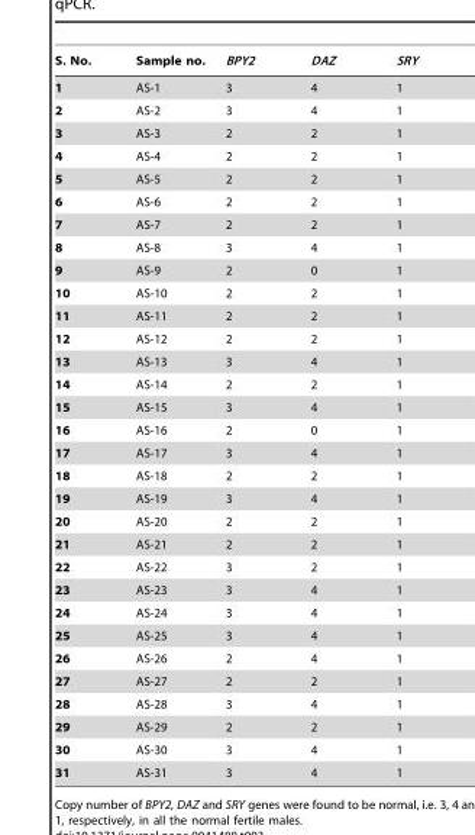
<table><thead><tr><td>S. No.</td><td>Sample no.</td><td>BPY2</td><td>DAZ</td><td>SRY</td></tr></thead><tbody><tr><td>1</td><td>AS-1</td><td>3</td><td>4</td><td>1</td></tr><tr><td>2</td><td>AS-2</td><td>3</td><td>4</td><td>1</td></tr><tr><td>3</td><td>AS-3</td><td>2</td><td>2</td><td>1</td></tr><tr><td>4</td><td>AS-4</td><td>2</td><td>2</td><td>1</td></tr><tr><td>5</td><td>AS-5</td><td>2</td><td>2</td><td>1</td></tr><tr><td>6</td><td>AS-6</td><td>2</td><td>2</td><td>1</td></tr><tr><td>7</td><td>AS-7</td><td>2</td><td>2</td><td>1</td></tr><tr><td>8</td><td>AS-8</td><td>3</td><td>4</td><td>1</td></tr><tr><td>9</td><td>AS-9</td><td>2</td><td>0</td><td>1</td></tr><tr><td>10</td><td>AS-10</td><td>2</td><td>2</td><td>1</td></tr><tr><td>11</td><td>AS-11</td><td>2</td><td>2</td><td>1</td></tr><tr><td>12</td><td>AS-12</td><td>2</td><td>2</td><td>1</td></tr><tr><td>13</td><td>AS-13</td><td>3</td><td>4</td><td>1</td></tr><tr><td>14</td><td>AS-14</td><td>2</td><td>2</td><td>1</td></tr><tr><td>15</td><td>AS-15</td><td>3</td><td>4</td><td>1</td></tr><tr><td>16</td><td>AS-16</td><td>2</td><td>0</td><td>1</td></tr><tr><td>17</td><td>AS-17</td><td>3</td><td>4</td><td>1</td></tr><tr><td>18</td><td>AS-18</td><td>2</td><td>2</td><td>1</td></tr><tr><td>19</td><td>AS-19</td><td>3</td><td>4</td><td>1</td></tr><tr><td>20</td><td>AS-20</td><td>2</td><td>2</td><td>1</td></tr><tr><td>21</td><td>AS-21</td><td>2</td><td>2</td><td>1</td></tr><tr><td>22</td><td>AS-22</td><td>3</td><td>2</td><td>1</td></tr><tr><td>23</td><td>AS-23</td><td>3</td><td>4</td><td>1</td></tr><tr><td>24</td><td>AS-24</td><td>3</td><td>4</td><td>1</td></tr><tr><td>25</td><td>AS-25</td><td>3</td><td>4</td><td>1</td></tr><tr><td>26</td><td>AS-26</td><td>2</td><td>4</td><td>1</td></tr><tr><td>27</td><td>AS-27</td><td>2</td><td>2</td><td>1</td></tr><tr><td>28</td><td>AS-28</td><td>3</td><td>4</td><td>1</td></tr><tr><td>29</td><td>AS-29</td><td>2</td><td>2</td><td>1</td></tr><tr><td>30</td><td>AS-30</td><td>3</td><td>4</td><td>1</td></tr><tr><td>31</td><td>AS-31</td><td>3</td><td>4</td><td>1</td></tr></tbody></table>